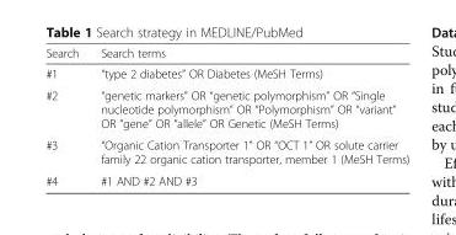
<table><thead><tr><td>Search</td><td>Search terms</td></tr></thead><tbody><tr><td>#1</td><td>“type 2 diabetes” OR Diabetes (MeSH Terms)</td></tr><tr><td>#2</td><td>“genetic markers” OR “genetic polymorphism” OR “Single nucleotide polymorphism” OR “Polymorphism” OR “variant” OR “gene” OR “allele” OR Genetic (MeSH Terms)</td></tr><tr><td>#3</td><td>“Organic Cation Transporter 1” OR “OCT 1” OR solute carrier family 22 organic cation transporter, member 1 (MeSH Terms)</td></tr><tr><td>#4</td><td>#1 AND #2 AND #3</td></tr></tbody></table>